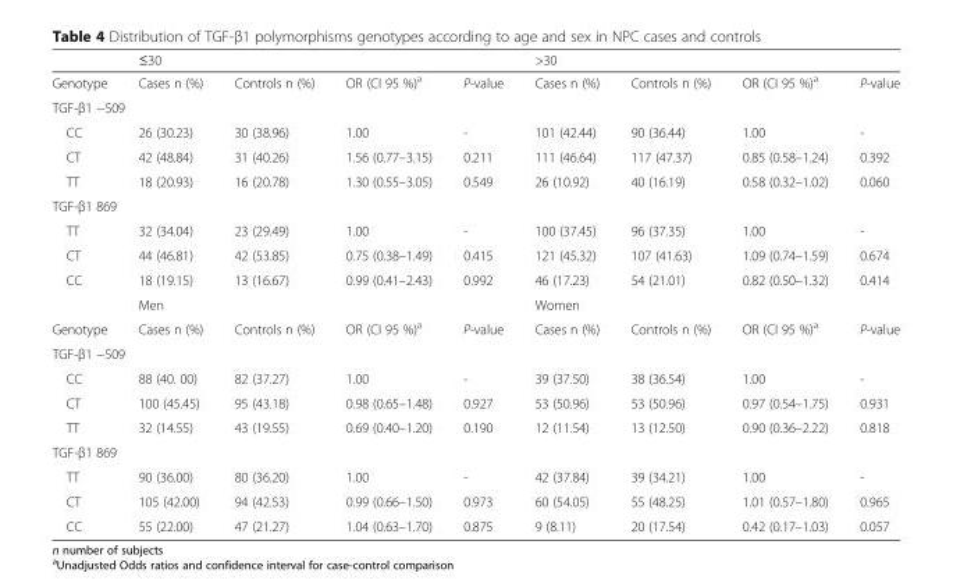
<table><thead><tr><td rowspan="2">Genotype</td><td colspan="4">≤30</td><td colspan="4">&gt;30</td></tr><tr><td>Cases n (%)</td><td>Controls n (%)</td><td>OR (CI 95 %)<sup>a</sup></td><td>P-value</td><td>Cases n (%)</td><td>Controls n (%)</td><td>OR (CI 95 %)<sup>a</sup></td><td>P-value</td></tr></thead><tbody><tr><td colspan="9">TGF-β1 −509</td></tr><tr><td>CC</td><td>26 (30.23)</td><td>30 (38.96)</td><td>1.00</td><td>-</td><td>101 (42.44)</td><td>90 (36.44)</td><td>1.00</td><td>-</td></tr><tr><td>CT</td><td>42 (48.84)</td><td>31 (40.26)</td><td>1.56 (0.77–3.15)</td><td>0.211</td><td>111 (46.64)</td><td>117 (47.37)</td><td>0.85 (0.58–1.24)</td><td>0.392</td></tr><tr><td>TT</td><td>18 (20.93)</td><td>16 (20.78)</td><td>1.30 (0.55–3.05)</td><td>0.549</td><td>26 (10.92)</td><td>40 (16.19)</td><td>0.58 (0.32–1.02)</td><td>0.060</td></tr><tr><td colspan="9">TGF-β1 869</td></tr><tr><td>TT</td><td>32 (34.04)</td><td>23 (29.49)</td><td>1.00</td><td>-</td><td>100 (37.45)</td><td>96 (37.35)</td><td>1.00</td><td>-</td></tr><tr><td>CT</td><td>44 (46.81)</td><td>42 (53.85)</td><td>0.75 (0.38–1.49)</td><td>0.415</td><td>121 (45.32)</td><td>107 (41.63)</td><td>1.09 (0.74–1.59)</td><td>0.674</td></tr><tr><td rowspan="2">CC</td><td>18 (19.15)</td><td>13 (16.67)</td><td>0.99 (0.41–2.43)</td><td>0.992</td><td>46 (17.23)</td><td>54 (21.01)</td><td>0.82 (0.50–1.32)</td><td>0.414</td></tr><tr><td colspan="4">Men</td><td colspan="4">Women</td></tr><tr><td>Genotype</td><td>Cases n (%)</td><td>Controls n (%)</td><td>OR (CI 95 %)<sup>a</sup></td><td>P-value</td><td>Cases n (%)</td><td>Controls n (%)</td><td>OR (CI 95 %)<sup>a</sup></td><td>P-value</td></tr><tr><td colspan="9">TGF-β1 −509</td></tr><tr><td>CC</td><td>88 (40. 00)</td><td>82 (37.27)</td><td>1.00</td><td>-</td><td>39 (37.50)</td><td>38 (36.54)</td><td>1.00</td><td>-</td></tr><tr><td>CT</td><td>100 (45.45)</td><td>95 (43.18)</td><td>0.98 (0.65–1.48)</td><td>0.927</td><td>53 (50.96)</td><td>53 (50.96)</td><td>0.97 (0.54–1.75)</td><td>0.931</td></tr><tr><td>TT</td><td>32 (14.55)</td><td>43 (19.55)</td><td>0.69 (0.40–1.20)</td><td>0.190</td><td>12 (11.54)</td><td>13 (12.50)</td><td>0.90 (0.36–2.22)</td><td>0.818</td></tr><tr><td colspan="9">TGF-β1 869</td></tr><tr><td>TT</td><td>90 (36.00)</td><td>80 (36.20)</td><td>1.00</td><td>-</td><td>42 (37.84)</td><td>39 (34.21)</td><td>1.00</td><td>-</td></tr><tr><td>CT</td><td>105 (42.00)</td><td>94 (42.53)</td><td>0.99 (0.66–1.50)</td><td>0.973</td><td>60 (54.05)</td><td>55 (48.25)</td><td>1.01 (0.57–1.80)</td><td>0.965</td></tr><tr><td>CC</td><td>55 (22.00)</td><td>47 (21.27)</td><td>1.04 (0.63–1.70)</td><td>0.875</td><td>9 (8.11)</td><td>20 (17.54)</td><td>0.42 (0.17–1.03)</td><td>0.057</td></tr></tbody></table>